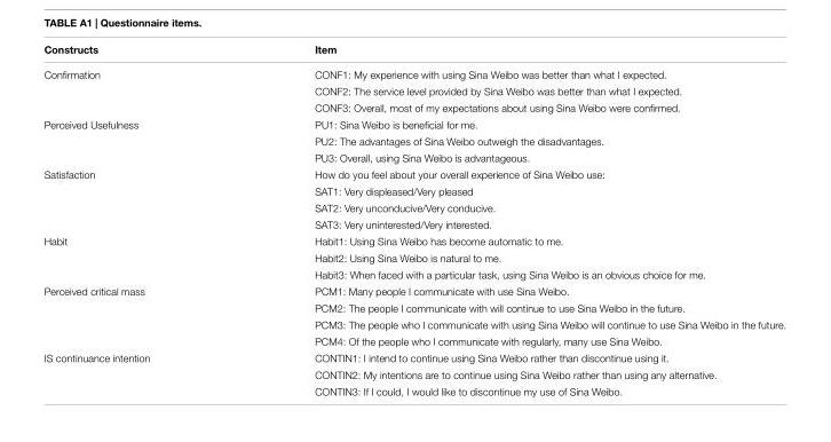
<table><thead><tr><td>Constructs</td><td>Item</td></tr></thead><tbody><tr><td rowspan="3">Confirmation</td><td>CONF1: My experience with using Sina Weibo was better than what I expected.</td></tr><tr><td>CONF2: The service level provided by Sina Weibo was better than what I expected.</td></tr><tr><td>CONF3: Overall, most of my expectations about using Sina Weibo were confirmed.</td></tr><tr><td rowspan="3">Perceived Usefulness</td><td>PU1: Sina Weibo is beneficial for me.</td></tr><tr><td>PU2: The advantages of Sina Weibo outweigh the disadvantages.</td></tr><tr><td>PU3: Overall, using Sina Weibo is advantageous.</td></tr><tr><td rowspan="4">Satisfaction</td><td>How do you feel about your overall experience of Sina Weibo use:</td></tr><tr><td>SAT1: Very displeased/Very pleased</td></tr><tr><td>SAT2: Very unconducive/Very conducive.</td></tr><tr><td>SAT3: Very uninterested/Very interested.</td></tr><tr><td rowspan="3">Habit</td><td>Habit1: Using Sina Weibo has become automatic to me.</td></tr><tr><td>Habit2: Using Sina Weibo is natural to me.</td></tr><tr><td>Habit3: When faced with a particular task, using Sina Weibo is an obvious choice for me.</td></tr><tr><td rowspan="4">Perceived critical mass</td><td>PCM1: Many people I communicate with use Sina Weibo.</td></tr><tr><td>PCM2: The people I communicate with will continue to use Sina Weibo in the future.</td></tr><tr><td>PCM3: The people who I communicate with using Sina Weibo will continue to use Sina Weibo in the future.</td></tr><tr><td>PCM4: Of the people who I communicate with regularly, many use Sina Weibo.</td></tr><tr><td rowspan="3">IS continuance intention</td><td>CONTIN1: I intend to continue using Sina Weibo rather than discontinue using it.</td></tr><tr><td>CONTIN2: My intentions are to continue using Sina Weibo rather than using any alternative.</td></tr><tr><td>CONTIN3: If I could, I would like to discontinue my use of Sina Weibo.</td></tr></tbody></table>